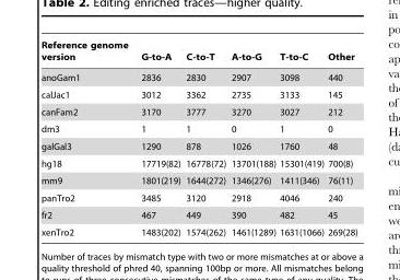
<table><thead><tr><td>Reference genome version</td><td>G-to-A</td><td>C-to-T</td><td>A-to-G</td><td>T-to-C</td><td>Other</td></tr></thead><tbody><tr><td>anoGam1</td><td>2836</td><td>2830</td><td>2907</td><td>3098</td><td>440</td></tr><tr><td>calJac1</td><td>3012</td><td>3362</td><td>2735</td><td>3133</td><td>145</td></tr><tr><td>canFam2</td><td>3170</td><td>3777</td><td>3270</td><td>3027</td><td>212</td></tr><tr><td>dm3</td><td>1</td><td>1</td><td>0</td><td>1</td><td>0</td></tr><tr><td>galGal3</td><td>1290</td><td>878</td><td>1026</td><td>1760</td><td>48</td></tr><tr><td>hg18</td><td>17719(82)</td><td>16778(72)</td><td>13701(188)</td><td>15301(419)</td><td>700(8)</td></tr><tr><td>mm9</td><td>1801(219)</td><td>1644(272)</td><td>1346(276)</td><td>1411(346)</td><td>76(11)</td></tr><tr><td>panTro2</td><td>3485</td><td>3120</td><td>2918</td><td>4046</td><td>240</td></tr><tr><td>fr2</td><td>467</td><td>449</td><td>390</td><td>482</td><td>45</td></tr><tr><td>xenTro2</td><td>1483(202)</td><td>1574(262)</td><td>1461(1289)</td><td>1631(1066)</td><td>269(28)</td></tr></tbody></table>